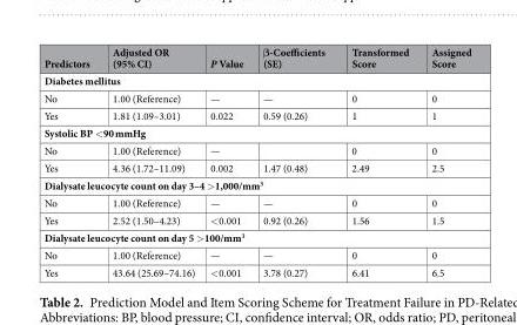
<table><thead><tr><td>Predictors</td><td>Adjusted OR (95% CI)</td><td>P Value</td><td>β-Coefficients (SE)</td><td>Transformed Score</td><td>Assigned Score</td></tr></thead><tbody><tr><td colspan="6">Diabetes mellitus</td></tr><tr><td>No</td><td>1.00 (Reference)</td><td>—</td><td>—</td><td>0</td><td>0</td></tr><tr><td>Yes</td><td>1.81 (1.09–3.01)</td><td>0.022</td><td>0.59 (0.26)</td><td>1</td><td>1</td></tr><tr><td colspan="6">Systolic BP &lt;90 mmHg</td></tr><tr><td>No</td><td>1.00 (Reference)</td><td>—</td><td></td><td>0</td><td>0</td></tr><tr><td>Yes</td><td>4.36 (1.72–11.09)</td><td>0.002</td><td>1.47 (0.48)</td><td>2.49</td><td>2.5</td></tr><tr><td colspan="6">Dialysate leucocyte count on day 3–4 &gt;1,000/mm<sup>3</sup></td></tr><tr><td>No</td><td>1.00 (Reference)</td><td>—</td><td>—</td><td>0</td><td>0</td></tr><tr><td>Yes</td><td>2.52 (1.50–4.23)</td><td>&lt;0.001</td><td>0.92 (0.26)</td><td>1.56</td><td>1.5</td></tr><tr><td colspan="6">Dialysate leucocyte count on day 5 &gt;100/mm<sup>3</sup></td></tr><tr><td>No</td><td>1.00 (Reference)</td><td>—</td><td>—</td><td>0</td><td>0</td></tr><tr><td>Yes</td><td>43.64 (25.69–74.16)</td><td>&lt;0.001</td><td>3.78 (0.27)</td><td>6.41</td><td>6.5</td></tr></tbody></table>